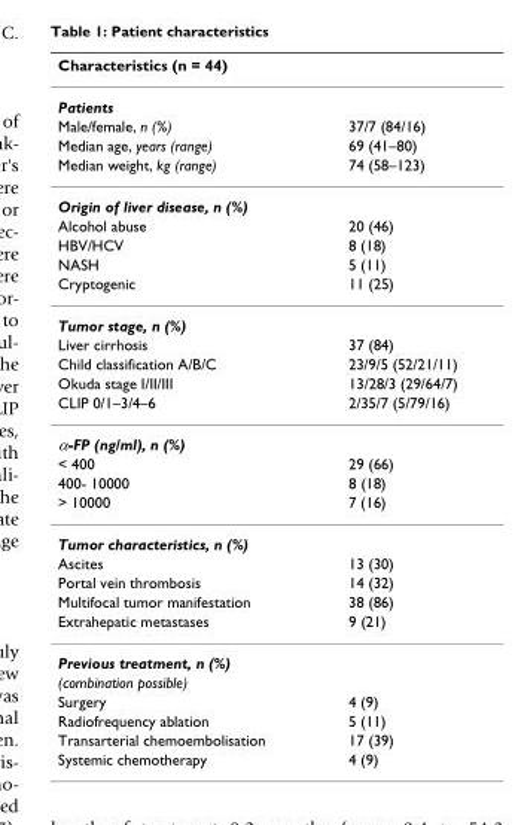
<table><thead><tr><td colspan="2">Characteristics (n = 44)</td></tr><tr><td>Patients</td><td></td></tr></thead><tbody><tr><td>Male/female, n (%)</td><td>37/7 (84/16)</td></tr><tr><td>Median age, years (range)</td><td>69 (41–80)</td></tr><tr><td>Median weight, kg (range)</td><td>74 (58–123)</td></tr><tr><td colspan="2">Origin of liver disease, n (%)</td></tr><tr><td>Alcohol abuse</td><td>20 (46)</td></tr><tr><td>HBV/HCV</td><td>8 (18)</td></tr><tr><td>NASH</td><td>5 (11)</td></tr><tr><td>Cryptogenic</td><td>11 (25)</td></tr><tr><td colspan="2">Tumor stage, n (%)</td></tr><tr><td>Liver cirrhosis</td><td>37 (84)</td></tr><tr><td>Child classification A/B/C</td><td>23/9/5 (52/21/11)</td></tr><tr><td>Okuda stage I/II/III</td><td>13/28/3 (29/64/7)</td></tr><tr><td>CLIP 0/1–3/4–6</td><td>2/35/7 (5/79/16)</td></tr><tr><td colspan="2">α-FP (ng/ml), n (%)</td></tr><tr><td>&lt; 400</td><td>29 (66)</td></tr><tr><td>400- 10000</td><td>8 (18)</td></tr><tr><td>&gt; 10000</td><td>7 (16)</td></tr><tr><td colspan="2">Tumor characteristics, n (%)</td></tr><tr><td>Ascites</td><td>13 (30)</td></tr><tr><td>Portal vein thrombosis</td><td>14 (32)</td></tr><tr><td>Multifocal tumor manifestation</td><td>38 (86)</td></tr><tr><td>Extrahepatic metastases</td><td>9 (21)</td></tr><tr><td colspan="2">Previous treatment, n (%)</td></tr><tr><td colspan="2">(combination possible)</td></tr><tr><td>Surgery</td><td>4 (9)</td></tr><tr><td>Radiofrequency ablation</td><td>5 (11)</td></tr><tr><td>Transarterial chemoembolisation</td><td>17 (39)</td></tr><tr><td>Systemic chemotherapy</td><td>4 (9)</td></tr></tbody></table>